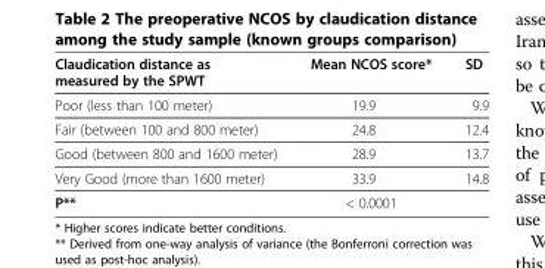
<table><thead><tr><td>Claudication distance as measured by the SPWT</td><td>Mean NCOS score*</td><td>SD</td></tr></thead><tbody><tr><td>Poor (less than 100 meter)</td><td>19.9</td><td>9.9</td></tr><tr><td>Fair (between 100 and 800 meter)</td><td>24.8</td><td>12.4</td></tr><tr><td>Good (between 800 and 1600 meter)</td><td>28.9</td><td>13.7</td></tr><tr><td>Very Good (more than 1600 meter)</td><td>33.9</td><td>14.8</td></tr><tr><td>P**</td><td>&lt; 0.0001</td><td></td></tr></tbody></table>